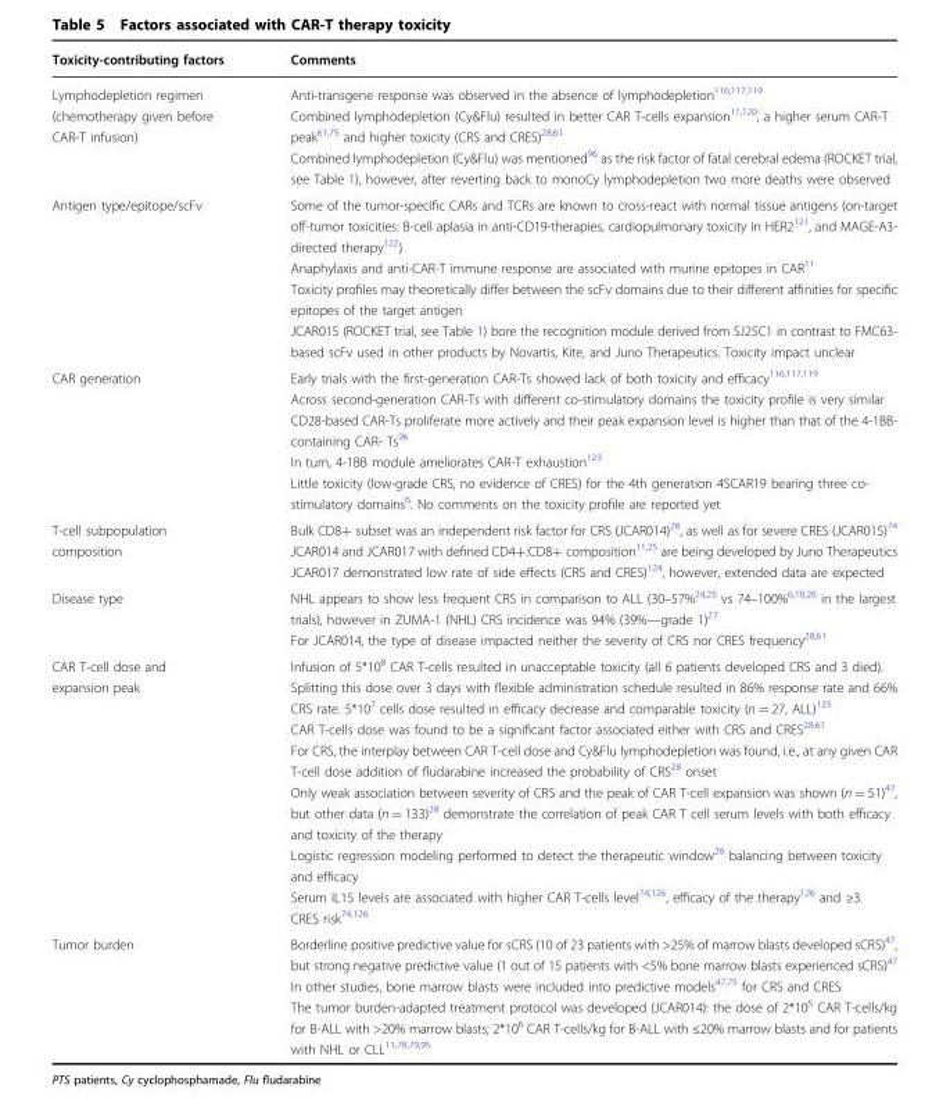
<table><thead><tr><td>Toxicity-contributing factors</td><td>Comments</td></tr></thead><tbody><tr><td>Lymphodepletion regimen (chemotherapy given before CAR-T infusion)</td><td>Anti-transgene response was observed in the absence of lymphodepletion<sup>116,117,119</sup> Combined lymphodepletion (Cy&amp;Flu) resulted in better CAR T-cells expansion<sup>11,120</sup>, a higher serum CAR-T peak<sup>61,75</sup> and higher toxicity (CRS and CRES)<sup>28,61</sup> Combined lymphodepletion (Cy&amp;Flu) was mentioned<sup>96</sup> as the risk factor of fatal cerebral edema (ROCKET trial, see Table 1), however, after reverting back to monoCy lymphodepletion two more deaths were observed</td></tr><tr><td>Antigen type/epitope/scFv</td><td>Some of the tumor-specific CARs and TCRs are known to cross-react with normal tissue antigens (on-target off-tumor toxicities: B-cell aplasia in anti-CD19-therapies, cardiopulmonary toxicity in HER2<sup>121</sup>, and MAGE-A3- directed therapy<sup>122</sup>) Anaphylaxis and anti-CAR-T immune response are associated with murine epitopes in CAR<sup>11</sup> Toxicity profiles may theoretically differ between the scFv domains due to their different affinities for specific epitopes of the target antigen JCAR015 (ROCKET trial, see Table 1) bore the recognition module derived from SJ25C1 in contrast to FMC63- based scFv used in other products by Novartis, Kite, and Juno Therapeutics. Toxicity impact unclear</td></tr><tr><td>CAR generation</td><td>Early trials with the first-generation CAR-Ts showed lack of both toxicity and efficacy<sup>116,117,119</sup> Across second-generation CAR-Ts with different co-stimulatory domains the toxicity profile is very similar CD28-based CAR-Ts proliferate more actively and their peak expansion level is higher than that of the 4-1BB- containing CAR- Ts<sup>96</sup> In turn, 4-1BB module ameliorates CAR-T exhaustion<sup>123</sup> Little toxicity (low-grade CRS, no evidence of CRES) for the 4th generation 4SCAR19 bearing three co- stimulatory domains<sup>6</sup>. No comments on the toxicity profile are reported yet</td></tr><tr><td>T-cell subpopulation composition</td><td>Bulk CD8+ subset was an independent risk factor for CRS (JCAR014)<sup>28</sup>, as well as for severe CRES (JCAR015)<sup>74</sup> JCAR014 and JCAR017 with defined CD4+:CD8+ composition<sup>11,25</sup> are being developed by Juno Therapeutics JCAR017 demonstrated low rate of side effects (CRS and CRES)<sup>124</sup>, however, extended data are expected</td></tr><tr><td>Disease type</td><td>NHL appears to show less frequent CRS in comparison to ALL (30–57%<sup>24,25</sup> vs 74–100%<sup>6,10,26</sup> in the largest trials), however in ZUMA-1 (NHL) CRS incidence was 94% (39%—grade 1)<sup>27</sup> For JCAR014, the type of disease impacted neither the severity of CRS nor CRES frequency<sup>28,61</sup></td></tr><tr><td>CAR T-cell dose and expansion peak</td><td>Infusion of 5*10<sup>8</sup> CAR T-cells resulted in unacceptable toxicity (all 6 patients developed CRS and 3 died). Splitting this dose over 3 days with flexible administration schedule resulted in 86% response rate and 66% CRS rate. 5*10<sup>7</sup> cells dose resulted in efficacy decrease and comparable toxicity (n = 27, ALL)<sup>125</sup> CAR T-cells dose was found to be a significant factor associated either with CRS and CRES<sup>28,61</sup> For CRS, the interplay between CAR T-cell dose and Cy&amp;Flu lymphodepletion was found, i.e., at any given CAR T-cell dose addition of fludarabine increased the probability of CRS<sup>28</sup> onset Only weak association between severity of CRS and the peak of CAR T-cell expansion was shown (n = 51)<sup>47</sup>, but other data (n = 133)<sup>28</sup> demonstrate the correlation of peak CAR T cell serum levels with both efficacy and toxicity of the therapy Logistic regression modeling performed to detect the therapeutic window<sup>28</sup> balancing between toxicity and efficacy Serum IL15 levels are associated with higher CAR T-cells level<sup>74,126</sup>, efficacy of the therapy<sup>126</sup> and ≥3 CRES risk<sup>74,126</sup></td></tr><tr><td>Tumor burden</td><td>Borderline positive predictive value for sCRS (10 of 23 patients with &gt;25% of marrow blasts developed sCRS)<sup>47</sup>, but strong negative predictive value (1 out of 15 patients with &lt;5% bone marrow blasts experienced sCRS)<sup>47</sup> In other studies, bone marrow blasts were included into predictive models<sup>47,75</sup> for CRS and CRES The tumor burden-adapted treatment protocol was developed (JCAR014): the dose of 2*10<sup>5</sup> CAR T-cells/kg for B-ALL with &gt;20% marrow blasts; 2*10<sup>6</sup> CAR T-cells/kg for B-ALL with ≤20% marrow blasts and for patients with NHL or CLL<sup>11,78,79,95</sup></td></tr></tbody></table>